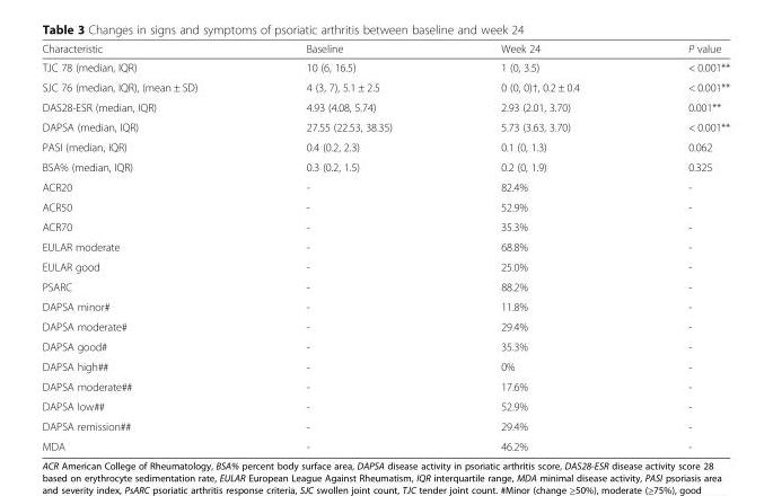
<table><thead><tr><td>Characteristic</td><td>Baseline</td><td>Week 24</td><td>P value</td></tr></thead><tbody><tr><td>TJC 78 (median, IQR)</td><td>10 (6, 16.5)</td><td>1 (0, 3.5)</td><td>&lt; 0.001**</td></tr><tr><td>SJC 76 (median, IQR), (mean ± SD)</td><td>4 (3, 7), 5.1 ± 2.5</td><td>0 (0, 0)†, 0.2 ± 0.4</td><td>&lt; 0.001**</td></tr><tr><td>DAS28-ESR (median, IQR)</td><td>4.93 (4.08, 5.74)</td><td>2.93 (2.01, 3.70)</td><td>0.001**</td></tr><tr><td>DAPSA (median, IQR)</td><td>27.55 (22.53, 38.35)</td><td>5.73 (3.63, 3.70)</td><td>&lt; 0.001**</td></tr><tr><td>PASI (median, IQR)</td><td>0.4 (0.2, 2.3)</td><td>0.1 (0, 1.3)</td><td>0.062</td></tr><tr><td>BSA% (median, IQR)</td><td>0.3 (0.2, 1.5)</td><td>0.2 (0, 1.9)</td><td>0.325</td></tr><tr><td>ACR20</td><td>-</td><td>82.4%</td><td>-</td></tr><tr><td>ACR50</td><td>-</td><td>52.9%</td><td>-</td></tr><tr><td>ACR70</td><td>-</td><td>35.3%</td><td>-</td></tr><tr><td>EULAR moderate</td><td>-</td><td>68.8%</td><td>-</td></tr><tr><td>EULAR good</td><td>-</td><td>25.0%</td><td>-</td></tr><tr><td>PSARC</td><td>-</td><td>88.2%</td><td>-</td></tr><tr><td>DAPSA minor#</td><td>-</td><td>11.8%</td><td>-</td></tr><tr><td>DAPSA moderate#</td><td>-</td><td>29.4%</td><td>-</td></tr><tr><td>DAPSA good#</td><td>-</td><td>35.3%</td><td>-</td></tr><tr><td>DAPSA high##</td><td>-</td><td>0%</td><td>-</td></tr><tr><td>DAPSA moderate##</td><td>-</td><td>17.6%</td><td>-</td></tr><tr><td>DAPSA low##</td><td>-</td><td>52.9%</td><td>-</td></tr><tr><td>DAPSA remission##</td><td>-</td><td>29.4%</td><td>-</td></tr><tr><td>MDA</td><td>-</td><td>46.2%</td><td>-</td></tr></tbody></table>